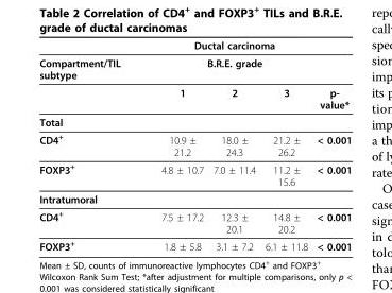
<table><thead><tr><td rowspan="3">Compartment/TIL subtype</td><td rowspan="2" colspan="3">Ductal carcinoma B.R.E. grade</td><td rowspan="3">p- value*</td></tr><tr></tr><tr><td>1</td><td>2</td><td>3</td></tr></thead><tbody><tr><td colspan="5">Total</td></tr><tr><td>CD4<sup>+</sup></td><td>10.9 ± 21.2</td><td>18.0 ± 24.3</td><td>21.2 ± 26.2</td><td>&lt; 0.001</td></tr><tr><td>FOXP3<sup>+</sup></td><td>4.8 ± 10.7</td><td>7.0 ± 11.4</td><td>11.2 ± 15.6</td><td>&lt; 0.001</td></tr><tr><td colspan="5">Intratumoral</td></tr><tr><td>CD4<sup>+</sup></td><td>7.5 ± 17.2</td><td>12.3 ± 20.1</td><td>14.8 ± 20.2</td><td>&lt; 0.001</td></tr><tr><td>FOXP3<sup>+</sup></td><td>1.8 ± 5.8</td><td>3.1 ± 7.2</td><td>6.1 ± 11.8</td><td>&lt; 0.001</td></tr></tbody></table>